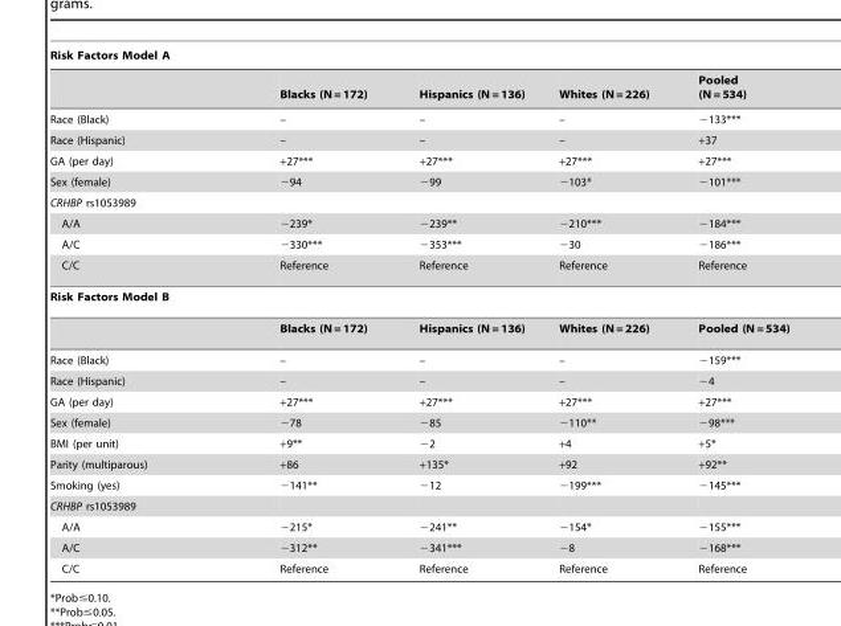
<table><thead><tr><td colspan="5">Risk Factors Model A</td></tr><tr><td></td><td>Blacks (N = 172)</td><td>Hispanics (N = 136)</td><td>Whites (N = 226)</td><td>Pooled (N = 534)</td></tr></thead><tbody><tr><td>Race (Black)</td><td>–</td><td>–</td><td>–</td><td>−133***</td></tr><tr><td>Race (Hispanic)</td><td>–</td><td>–</td><td>–</td><td>+37</td></tr><tr><td>GA (per day)</td><td>+27***</td><td>+27***</td><td>+27***</td><td>+27***</td></tr><tr><td>Sex (female)</td><td>−94</td><td>−99</td><td>−103*</td><td>−101***</td></tr><tr><td colspan="5">CRHBP rs1053989</td></tr><tr><td>A/A</td><td>−239*</td><td>−239**</td><td>−210***</td><td>−184***</td></tr><tr><td>A/C</td><td>−330***</td><td>−353***</td><td>−30</td><td>−186***</td></tr><tr><td>C/C</td><td>Reference</td><td>Reference</td><td>Reference</td><td>Reference</td></tr><tr><td colspan="5">Risk Factors Model B</td></tr><tr><td></td><td>Blacks (N = 172)</td><td>Hispanics (N = 136)</td><td>Whites (N = 226)</td><td>Pooled (N = 534)</td></tr><tr><td>Race (Black)</td><td>–</td><td>–</td><td>–</td><td>−159***</td></tr><tr><td>Race (Hispanic)</td><td>–</td><td>–</td><td>–</td><td>−4</td></tr><tr><td>GA (per day)</td><td>+27***</td><td>+27***</td><td>+27***</td><td>+27***</td></tr><tr><td>Sex (female)</td><td>−78</td><td>−85</td><td>−110**</td><td>−98***</td></tr><tr><td>BMI (per unit)</td><td>+9**</td><td>−2</td><td>+4</td><td>+5*</td></tr><tr><td>Parity (multiparous)</td><td>+86</td><td>+135*</td><td>+92</td><td>+92**</td></tr><tr><td>Smoking (yes)</td><td>−141**</td><td>−12</td><td>−199***</td><td>−145***</td></tr><tr><td colspan="5">CRHBP rs1053989</td></tr><tr><td>A/A</td><td>−215*</td><td>−241**</td><td>−154*</td><td>−155***</td></tr><tr><td>A/C</td><td>−312**</td><td>−341***</td><td>−8</td><td>−168***</td></tr><tr><td>C/C</td><td>Reference</td><td>Reference</td><td>Reference</td><td>Reference</td></tr></tbody></table>